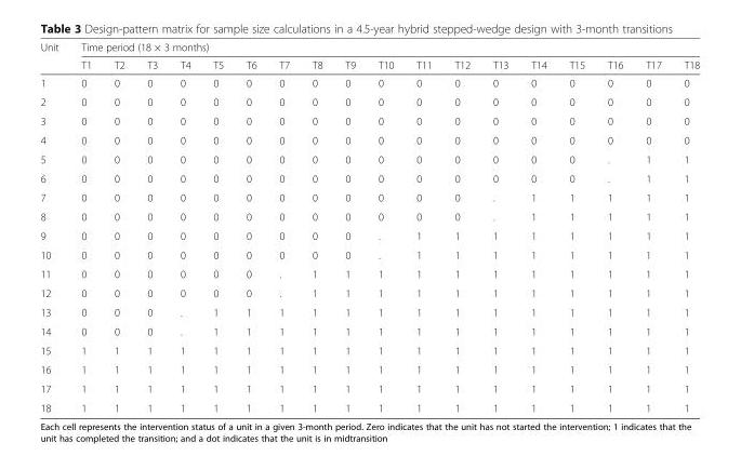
<table><thead><tr><td rowspan="2">Unit</td><td colspan="18">Time period (18 × 3 months)</td></tr><tr><td>T1</td><td>T2</td><td>T3</td><td>T4</td><td>T5</td><td>T6</td><td>T7</td><td>T8</td><td>T9</td><td>T10</td><td>T11</td><td>T12</td><td>T13</td><td>T14</td><td>T15</td><td>T16</td><td>T17</td><td>T18</td></tr></thead><tbody><tr><td>1</td><td>0</td><td>0</td><td>0</td><td>0</td><td>0</td><td>0</td><td>0</td><td>0</td><td>0</td><td>0</td><td>0</td><td>0</td><td>0</td><td>0</td><td>0</td><td>0</td><td>0</td><td>0</td></tr><tr><td>2</td><td>0</td><td>0</td><td>0</td><td>0</td><td>0</td><td>0</td><td>0</td><td>0</td><td>0</td><td>0</td><td>0</td><td>0</td><td>0</td><td>0</td><td>0</td><td>0</td><td>0</td><td>0</td></tr><tr><td>3</td><td>0</td><td>0</td><td>0</td><td>0</td><td>0</td><td>0</td><td>0</td><td>0</td><td>0</td><td>0</td><td>0</td><td>0</td><td>0</td><td>0</td><td>0</td><td>0</td><td>0</td><td>0</td></tr><tr><td>4</td><td>0</td><td>0</td><td>0</td><td>0</td><td>0</td><td>0</td><td>0</td><td>0</td><td>0</td><td>0</td><td>0</td><td>0</td><td>0</td><td>0</td><td>0</td><td>0</td><td>0</td><td>0</td></tr><tr><td>5</td><td>0</td><td>0</td><td>0</td><td>0</td><td>0</td><td>0</td><td>0</td><td>0</td><td>0</td><td>0</td><td>0</td><td>0</td><td>0</td><td>0</td><td>0</td><td>.</td><td>1</td><td>1</td></tr><tr><td>6</td><td>0</td><td>0</td><td>0</td><td>0</td><td>0</td><td>0</td><td>0</td><td>0</td><td>0</td><td>0</td><td>0</td><td>0</td><td>0</td><td>0</td><td>0</td><td>.</td><td>1</td><td>1</td></tr><tr><td>7</td><td>0</td><td>0</td><td>0</td><td>0</td><td>0</td><td>0</td><td>0</td><td>0</td><td>0</td><td>0</td><td>0</td><td>0</td><td>.</td><td>1</td><td>1</td><td>1</td><td>1</td><td>1</td></tr><tr><td>8</td><td>0</td><td>0</td><td>0</td><td>0</td><td>0</td><td>0</td><td>0</td><td>0</td><td>0</td><td>0</td><td>0</td><td>0</td><td>.</td><td>1</td><td>1</td><td>1</td><td>1</td><td>1</td></tr><tr><td>9</td><td>0</td><td>0</td><td>0</td><td>0</td><td>0</td><td>0</td><td>0</td><td>0</td><td>0</td><td>.</td><td>1</td><td>1</td><td>1</td><td>1</td><td>1</td><td>1</td><td>1</td><td>1</td></tr><tr><td>10</td><td>0</td><td>0</td><td>0</td><td>0</td><td>0</td><td>0</td><td>0</td><td>0</td><td>0</td><td>.</td><td>1</td><td>1</td><td>1</td><td>1</td><td>1</td><td>1</td><td>1</td><td>1</td></tr><tr><td>11</td><td>0</td><td>0</td><td>0</td><td>0</td><td>0</td><td>0</td><td>.</td><td>1</td><td>1</td><td>1</td><td>1</td><td>1</td><td>1</td><td>1</td><td>1</td><td>1</td><td>1</td><td>1</td></tr><tr><td>12</td><td>0</td><td>0</td><td>0</td><td>0</td><td>0</td><td>0</td><td>.</td><td>1</td><td>1</td><td>1</td><td>1</td><td>1</td><td>1</td><td>1</td><td>1</td><td>1</td><td>1</td><td>1</td></tr><tr><td>13</td><td>0</td><td>0</td><td>0</td><td>.</td><td>1</td><td>1</td><td>1</td><td>1</td><td>1</td><td>1</td><td>1</td><td>1</td><td>1</td><td>1</td><td>1</td><td>1</td><td>1</td><td>1</td></tr><tr><td>14</td><td>0</td><td>0</td><td>0</td><td>.</td><td>1</td><td>1</td><td>1</td><td>1</td><td>1</td><td>1</td><td>1</td><td>1</td><td>1</td><td>1</td><td>1</td><td>1</td><td>1</td><td>1</td></tr><tr><td>15</td><td>1</td><td>1</td><td>1</td><td>1</td><td>1</td><td>1</td><td>1</td><td>1</td><td>1</td><td>1</td><td>1</td><td>1</td><td>1</td><td>1</td><td>1</td><td>1</td><td>1</td><td>1</td></tr><tr><td>16</td><td>1</td><td>1</td><td>1</td><td>1</td><td>1</td><td>1</td><td>1</td><td>1</td><td>1</td><td>1</td><td>1</td><td>1</td><td>1</td><td>1</td><td>1</td><td>1</td><td>1</td><td>1</td></tr><tr><td>17</td><td>1</td><td>1</td><td>1</td><td>1</td><td>1</td><td>1</td><td>1</td><td>1</td><td>1</td><td>1</td><td>1</td><td>1</td><td>1</td><td>1</td><td>1</td><td>1</td><td>1</td><td>1</td></tr><tr><td>18</td><td>1</td><td>1</td><td>1</td><td>1</td><td>1</td><td>1</td><td>1</td><td>1</td><td>1</td><td>1</td><td>1</td><td>1</td><td>1</td><td>1</td><td>1</td><td>1</td><td>1</td><td>1</td></tr></tbody></table>